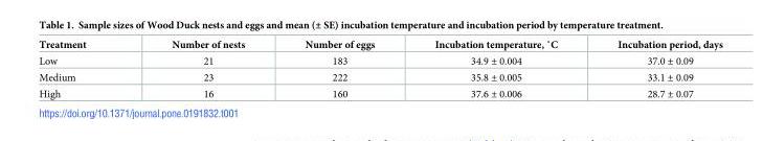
<table><thead><tr><td>Treatment</td><td>Number of nests</td><td>Number of eggs</td><td>Incubation temperature, ˚C</td><td>Incubation period, days</td></tr></thead><tbody><tr><td>Low</td><td>21</td><td>183</td><td>34.9 ± 0.004</td><td>37.0 ± 0.09</td></tr><tr><td>Medium</td><td>23</td><td>222</td><td>35.8 ± 0.005</td><td>33.1 ± 0.09</td></tr><tr><td>High</td><td>16</td><td>160</td><td>37.6 ± 0.006</td><td>28.7 ± 0.07</td></tr></tbody></table>